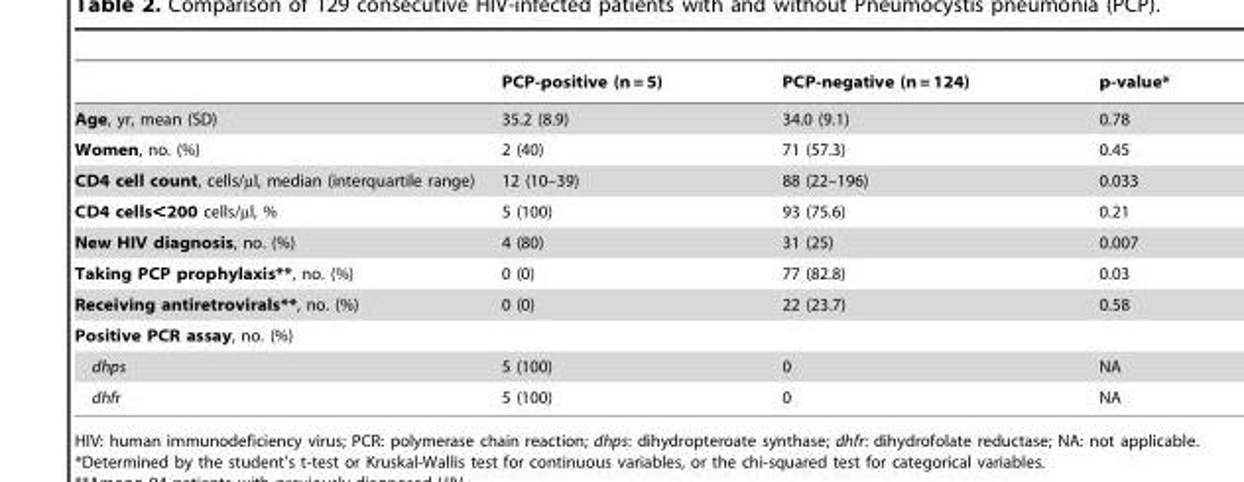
<table><thead><tr><td></td><td>PCP-positive (n = 5)</td><td>PCP-negative (n = 124)</td><td>p-value*</td></tr></thead><tbody><tr><td>Age, yr, mean (SD)</td><td>35.2 (8.9)</td><td>34.0 (9.1)</td><td>0.78</td></tr><tr><td>Women, no. (%)</td><td>2 (40)</td><td>71 (57.3)</td><td>0.45</td></tr><tr><td>CD4 cell count, cells/µl, median (interquartile range)</td><td>12 (10–39)</td><td>88 (22–196)</td><td>0.033</td></tr><tr><td>CD4 cells&lt;200 cells/µl, %</td><td>5 (100)</td><td>93 (75.6)</td><td>0.21</td></tr><tr><td>New HIV diagnosis, no. (%)</td><td>4 (80)</td><td>31 (25)</td><td>0.007</td></tr><tr><td>Taking PCP prophylaxis**, no. (%)</td><td>0 (0)</td><td>77 (82.8)</td><td>0.03</td></tr><tr><td>Receiving antiretrovirals**, no. (%)</td><td>0 (0)</td><td>22 (23.7)</td><td>0.58</td></tr><tr><td colspan="4">Positive PCR assay, no. (%)</td></tr><tr><td>dhps</td><td>5 (100)</td><td>0</td><td>NA</td></tr><tr><td>dhfr</td><td>5 (100)</td><td>0</td><td>NA</td></tr></tbody></table>